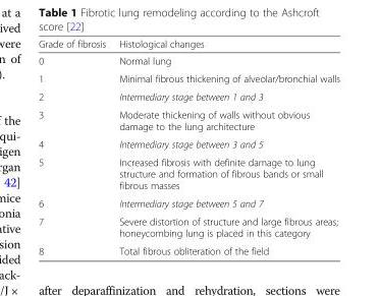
<table><thead><tr><td>Grade of fibrosis</td><td>Histological changes</td></tr></thead><tbody><tr><td>0</td><td>Normal lung</td></tr><tr><td>1</td><td>Minimal fibrous thickening of alveolar/bronchial walls</td></tr><tr><td>2</td><td>Intermediary stage between 1 and 3</td></tr><tr><td>3</td><td>Moderate thickening of walls without obvious damage to the lung architecture</td></tr><tr><td>4</td><td>Intermediary stage between 3 and 5</td></tr><tr><td>5</td><td>Increased fibrosis with definite damage to lung structure and formation of fibrous bands or small fibrous masses</td></tr><tr><td>6</td><td>Intermediary stage between 5 and 7</td></tr><tr><td>7</td><td>Severe distortion of structure and large fibrous areas; honeycombing lung is placed in this category</td></tr><tr><td>8</td><td>Total fibrous obliteration of the field</td></tr></tbody></table>